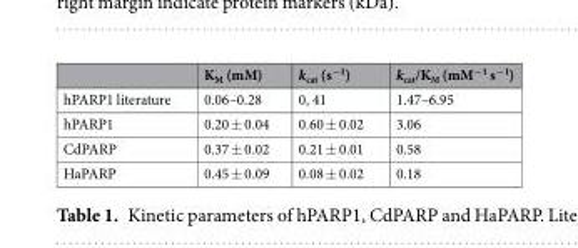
<table><thead><tr><td></td><td>K<sub>M</sub> (mM)</td><td>k<sub>cat</sub> (s<sup>−1</sup>)</td><td>k<sub>cat</sub>/K<sub>M</sub> (mM<sup>−1</sup> s<sup>−1</sup>)</td></tr></thead><tbody><tr><td>hPARP1 literature</td><td>0.06–0.28</td><td>0, 41</td><td>1.47–6.95</td></tr><tr><td>hPARP1</td><td>0.20 ± 0.04</td><td>0.60 ± 0.02</td><td>3.06</td></tr><tr><td>CdPARP</td><td>0.37 ± 0.02</td><td>0.21 ± 0.01</td><td>0.58</td></tr><tr><td>HaPARP</td><td>0.45 ± 0.09</td><td>0.08 ± 0.02</td><td>0.18</td></tr></tbody></table>